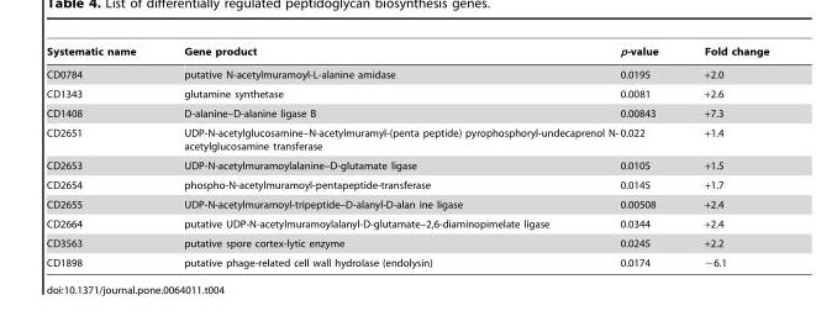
<table><thead><tr><td>Systematic name</td><td>Gene product</td><td>p-value</td><td>Fold change</td></tr></thead><tbody><tr><td>CD0784</td><td>putative N-acetylmuramoyl-L-alanine amidase</td><td>0.0195</td><td>+2.0</td></tr><tr><td>CD1343</td><td>glutamine synthetase</td><td>0.0081</td><td>+2.6</td></tr><tr><td>CD1408</td><td>D-alanine–D-alanine ligase B</td><td>0.00843</td><td>+7.3</td></tr><tr><td>CD2651</td><td>UDP-N-acetylglucosamine–N-acetylmuramyl-(penta peptide) pyrophosphoryl-undecaprenol N- acetylglucosamine transferase</td><td>0.022</td><td>+1.4</td></tr><tr><td>CD2653</td><td>UDP-N-acetylmuramoylalanine–D-glutamate ligase</td><td>0.0105</td><td>+1.5</td></tr><tr><td>CD2654</td><td>phospho-N-acetylmuramoyl-pentapeptide-transferase</td><td>0.0145</td><td>+1.7</td></tr><tr><td>CD2655</td><td>UDP-N-acetylmuramoyl-tripeptide–D-alanyl-D-alan ine ligase</td><td>0.00508</td><td>+2.4</td></tr><tr><td>CD2664</td><td>putative UDP-N-acetylmuramoylalanyl-D-glutamate–2,6-diaminopimelate ligase</td><td>0.0344</td><td>+2.4</td></tr><tr><td>CD3563</td><td>putative spore cortex-lytic enzyme</td><td>0.0245</td><td>+2.2</td></tr><tr><td>CD1898</td><td>putative phage-related cell wall hydrolase (endolysin)</td><td>0.0174</td><td>−6.1</td></tr></tbody></table>